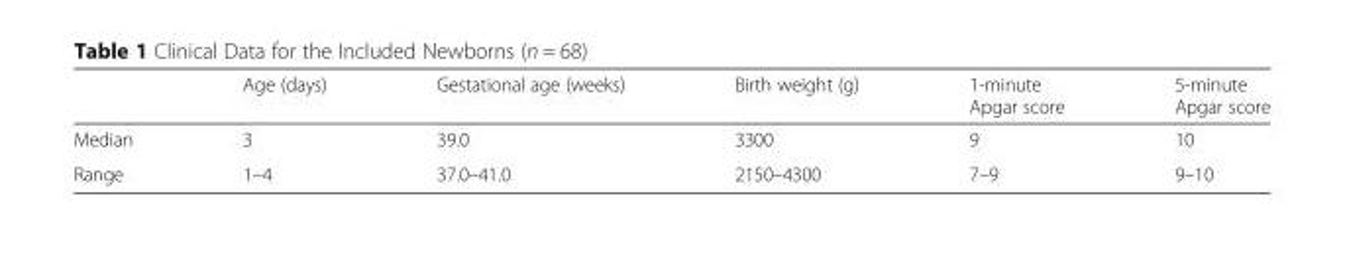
<table><thead><tr><td></td><td>Age (days)</td><td>Gestational age (weeks)</td><td>Birth weight (g)</td><td>1-minute Apgar score</td><td>5-minute Apgar score</td></tr></thead><tbody><tr><td>Median</td><td>3</td><td>39.0</td><td>3300</td><td>9</td><td>10</td></tr><tr><td>Range</td><td>1–4</td><td>37.0–41.0</td><td>2150–4300</td><td>7–9</td><td>9–10</td></tr></tbody></table>